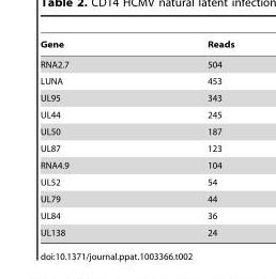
<table><thead><tr><td>Gene</td><td>Reads</td></tr></thead><tbody><tr><td>RNA2.7</td><td>504</td></tr><tr><td>LUNA</td><td>453</td></tr><tr><td>UL95</td><td>343</td></tr><tr><td>UL44</td><td>245</td></tr><tr><td>UL50</td><td>187</td></tr><tr><td>UL87</td><td>123</td></tr><tr><td>RNA4.9</td><td>104</td></tr><tr><td>UL52</td><td>54</td></tr><tr><td>UL79</td><td>44</td></tr><tr><td>UL84</td><td>36</td></tr><tr><td>UL138</td><td>24</td></tr></tbody></table>